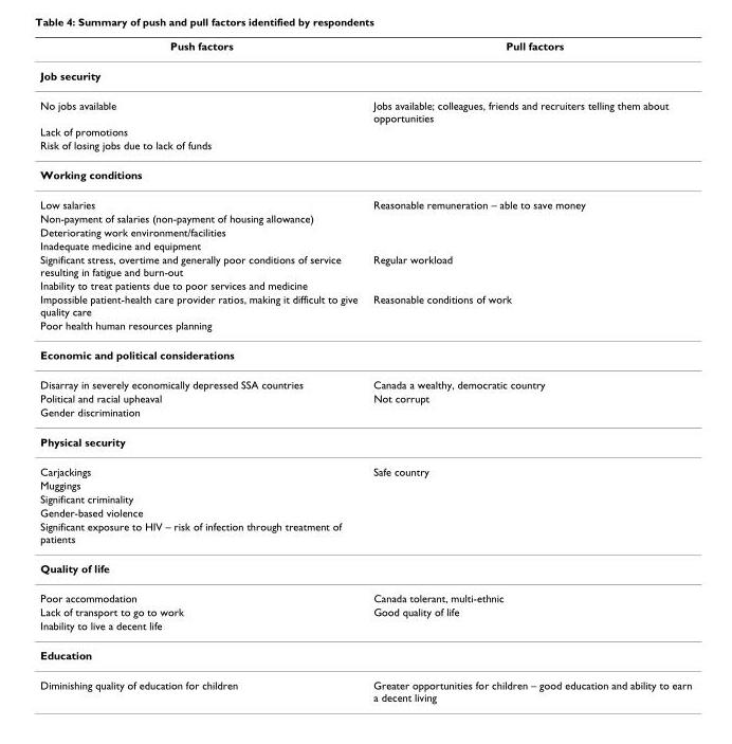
<table><thead><tr><td>Push factors</td><td>Pull factors</td></tr></thead><tbody><tr><td colspan="2">Job security</td></tr><tr><td>No jobs available</td><td>Jobs available; colleagues, friends and recruiters telling them about opportunities</td></tr><tr><td colspan="2">Lack of promotions</td></tr><tr><td colspan="2">Risk of losing jobs due to lack of funds</td></tr><tr><td colspan="2">Working conditions</td></tr><tr><td>Low salaries</td><td>Reasonable remuneration – able to save money</td></tr><tr><td colspan="2">Non-payment of salaries (non-payment of housing allowance)</td></tr><tr><td colspan="2">Deteriorating work environment/facilities</td></tr><tr><td colspan="2">Inadequate medicine and equipment</td></tr><tr><td>Significant stress, overtime and generally poor conditions of service resulting in fatigue and burn-out</td><td>Regular workload</td></tr><tr><td colspan="2">Inability to treat patients due to poor services and medicine</td></tr><tr><td>Impossible patient-health care provider ratios, making it difficult to give quality care</td><td>Reasonable conditions of work</td></tr><tr><td colspan="2">Poor health human resources planning</td></tr><tr><td colspan="2">Economic and political considerations</td></tr><tr><td>Disarray in severely economically depressed SSA countries</td><td>Canada a wealthy, democratic country</td></tr><tr><td>Political and racial upheaval</td><td>Not corrupt</td></tr><tr><td colspan="2">Gender discrimination</td></tr><tr><td colspan="2">Physical security</td></tr><tr><td>Carjackings</td><td>Safe country</td></tr><tr><td colspan="2">Muggings</td></tr><tr><td colspan="2">Significant criminality</td></tr><tr><td colspan="2">Gender-based violence</td></tr><tr><td colspan="2">Significant exposure to HIV – risk of infection through treatment of patients</td></tr><tr><td colspan="2">Quality of life</td></tr><tr><td>Poor accommodation</td><td>Canada tolerant, multi-ethnic</td></tr><tr><td>Lack of transport to go to work</td><td>Good quality of life</td></tr><tr><td colspan="2">Inability to live a decent life</td></tr><tr><td colspan="2">Education</td></tr><tr><td>Diminishing quality of education for children</td><td>Greater opportunities for children – good education and ability to earn a decent living</td></tr></tbody></table>